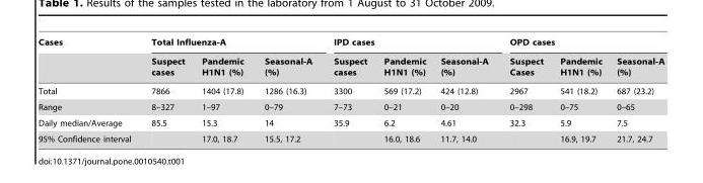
<table><thead><tr><td rowspan="2">Cases</td><td colspan="3">Total Influenza-A</td><td colspan="3">IPD cases</td><td colspan="3">OPD cases</td></tr><tr><td>Suspect cases</td><td>Pandemic H1N1 (%)</td><td>Seasonal-A (%)</td><td>Suspect cases</td><td>Pandemic H1N1 (%)</td><td>Seasonal-A (%)</td><td>Suspect Cases</td><td>Pandemic H1N1 (%)</td><td>Seasonal-A (%)</td></tr></thead><tbody><tr><td>Total</td><td>7866</td><td>1404 (17.8)</td><td>1286 (16.3)</td><td>3300</td><td>569 (17.2)</td><td>424 (12.8)</td><td>2967</td><td>541 (18.2)</td><td>687 (23.2)</td></tr><tr><td>Range</td><td>8–327</td><td>1–97</td><td>0–79</td><td>7–73</td><td>0–21</td><td>0–20</td><td>0–298</td><td>0–75</td><td>0–65</td></tr><tr><td>Daily median/Average</td><td>85.5</td><td>15.3</td><td>14</td><td>35.9</td><td>6.2</td><td>4.61</td><td>32.3</td><td>5.9</td><td>7.5</td></tr><tr><td>95% Confidence interval</td><td></td><td>17.0, 18.7</td><td>15.5, 17.2</td><td></td><td>16.0, 18.6</td><td>11.7, 14.0</td><td></td><td>16.9, 19.7</td><td>21.7, 24.7</td></tr></tbody></table>